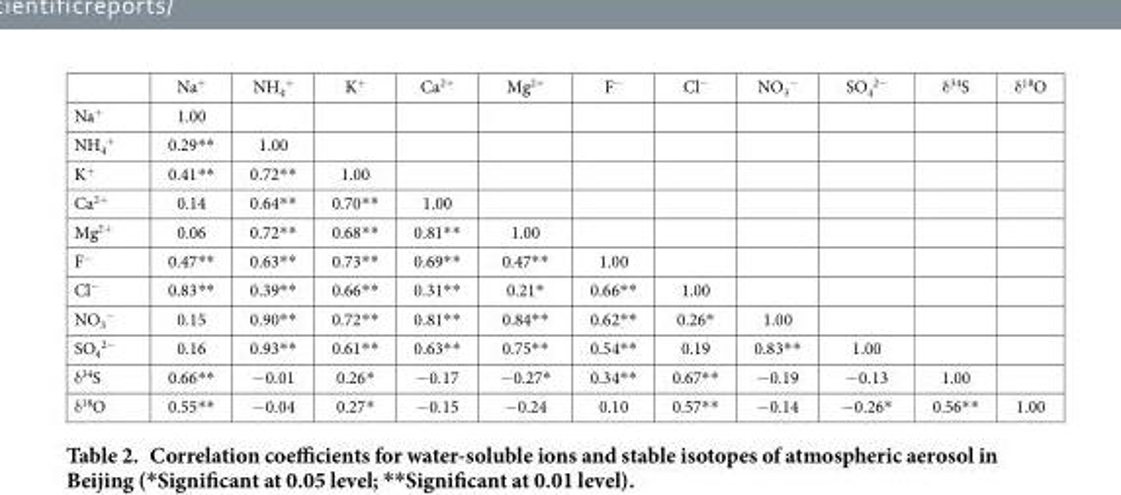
<table><thead><tr><td></td><td>Na<sup>+</sup></td><td>NH<sub>4</sub> <sup>+</sup></td><td>K<sup>+</sup></td><td>Ca<sup>2+</sup></td><td>Mg<sup>2+</sup></td><td>F<sup>−</sup></td><td>Cl<sup>−</sup></td><td>NO<sub>3</sub> <sup>−</sup></td><td>SO<sub>4</sub> <sup>2−</sup></td><td>δ <sup>34</sup>S</td><td>δ <sup>18</sup>O</td></tr></thead><tbody><tr><td>Na<sup>+</sup></td><td>1.00</td><td></td><td></td><td></td><td></td><td></td><td></td><td></td><td></td><td></td><td></td></tr><tr><td>NH<sub>4</sub> <sup>+</sup></td><td>0.29* *</td><td>1.00</td><td></td><td></td><td></td><td></td><td></td><td></td><td></td><td></td><td></td></tr><tr><td>K<sup>+</sup></td><td>0.41* *</td><td>0.72* *</td><td>1.00</td><td></td><td></td><td></td><td></td><td></td><td></td><td></td><td></td></tr><tr><td>Ca<sup>2+</sup></td><td>0.14</td><td>0.64* *</td><td>0.70* *</td><td>1.00</td><td></td><td></td><td></td><td></td><td></td><td></td><td></td></tr><tr><td>Mg<sup>2+</sup></td><td>0.06</td><td>0.72* *</td><td>0.68* *</td><td>0.81* *</td><td>1.00</td><td></td><td></td><td></td><td></td><td></td><td></td></tr><tr><td>F<sup>−</sup></td><td>0.47* *</td><td>0.63* *</td><td>0.73* *</td><td>0.69* *</td><td>0.47* *</td><td>1.00</td><td></td><td></td><td></td><td></td><td></td></tr><tr><td>Cl<sup>−</sup></td><td>0.83* *</td><td>0.39* *</td><td>0.66* *</td><td>0.31* *</td><td>0.21*</td><td>0.66* *</td><td>1.00</td><td></td><td></td><td></td><td></td></tr><tr><td>NO<sub>3</sub> <sup>−</sup></td><td>0.15</td><td>0.90* *</td><td>0.72* *</td><td>0.81* *</td><td>0.84* *</td><td>0.62* *</td><td>0.26*</td><td>1.00</td><td></td><td></td><td></td></tr><tr><td>SO<sub>4</sub> <sup>2−</sup></td><td>0.16</td><td>0.93* *</td><td>0.61* *</td><td>0.63* *</td><td>0.75* *</td><td>0.54* *</td><td>0.19</td><td>0.83* *</td><td>1.00</td><td></td><td></td></tr><tr><td>δ <sup>34</sup>S</td><td>0.66* *</td><td>− 0.01</td><td>0.26*</td><td>− 0.17</td><td>− 0.27*</td><td>0.34* *</td><td>0.67* *</td><td>− 0.19</td><td>− 0.13</td><td>1.00</td><td></td></tr><tr><td>δ <sup>18</sup>O</td><td>0.55* *</td><td>− 0.04</td><td>0.27*</td><td>− 0.15</td><td>− 0.24</td><td>0.10</td><td>0.57* *</td><td>− 0.14</td><td>− 0.26*</td><td>0.56* *</td><td>1.00</td></tr></tbody></table>